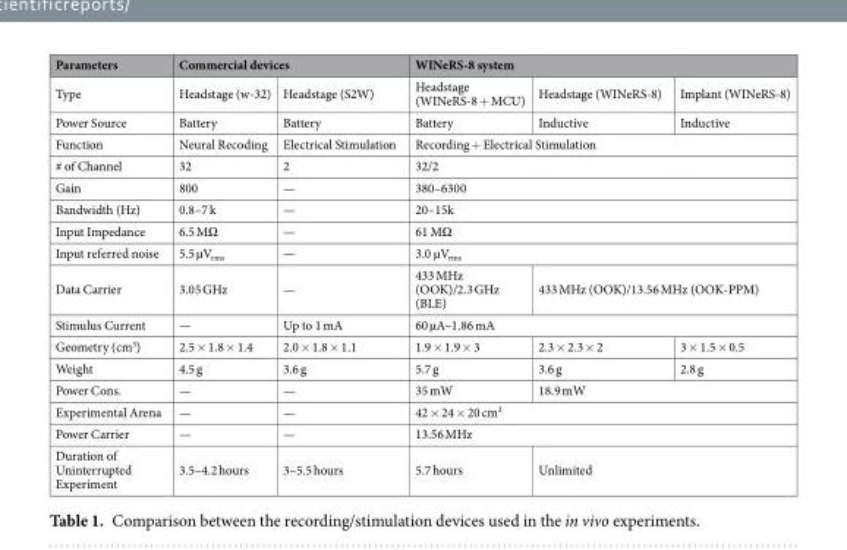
<table><thead><tr><td rowspan="2">Parameters Type</td><td colspan="2">Commercial devices</td><td colspan="3">WINeRS-8 system</td></tr><tr><td>Headstage (w-32)</td><td>Headstage (S2W)</td><td>Headstage (WINeRS-8 + MCU)</td><td>Headstage (WINeRS-8)</td><td>Implant (WINeRS-8)</td></tr></thead><tbody><tr><td>Power Source</td><td>Battery</td><td>Battery</td><td>Battery</td><td>Inductive</td><td>Inductive</td></tr><tr><td>Function</td><td>Neural Recoding</td><td>Electrical Stimulation</td><td colspan="3">Recording + Electrical Stimulation</td></tr><tr><td># of Channel</td><td>32</td><td>2</td><td colspan="3">32/2</td></tr><tr><td>Gain</td><td>800</td><td>—</td><td colspan="3">380–6300</td></tr><tr><td>Bandwidth (Hz)</td><td>0.8–7 k</td><td>—</td><td colspan="3">20–15k</td></tr><tr><td>Input Impedance</td><td>6.5 MΩ</td><td>—</td><td colspan="3">61 MΩ</td></tr><tr><td>Input referred noise</td><td>5.5 µV<sub>rms</sub></td><td>—</td><td colspan="3">3.0 µV<sub>rms</sub></td></tr><tr><td>Data Carrier</td><td>3.05 GHz</td><td>—</td><td>433 MHz (OOK)/2.3 GHz (BLE)</td><td colspan="2">433 MHz (OOK)/13.56 MHz (OOK-PPM)</td></tr><tr><td>Stimulus Current</td><td>—</td><td>Up to 1 mA</td><td colspan="3">60 µA–1.86 mA</td></tr><tr><td>Geometry (cm<sup>3</sup>)</td><td>2.5 × 1.8 × 1.4</td><td>2.0 × 1.8 × 1.1</td><td>1.9 × 1.9 × 3</td><td>2.3 × 2.3 × 2</td><td>3 × 1.5 × 0.5</td></tr><tr><td>Weight</td><td>4.5 g</td><td>3.6 g</td><td>5.7 g</td><td>3.6 g</td><td>2.8 g</td></tr><tr><td>Power Cons.</td><td>—</td><td>—</td><td>35 mW</td><td colspan="2">18.9 mW</td></tr><tr><td>Experimental Arena</td><td>—</td><td>—</td><td colspan="3">42 × 24 × 20 cm<sup>3</sup></td></tr><tr><td>Power Carrier</td><td>—</td><td>—</td><td colspan="3">13.56 MHz</td></tr><tr><td>Duration of Uninterrupted Experiment</td><td>3.5–4.2 hours</td><td>3–5.5 hours</td><td>5.7 hours</td><td colspan="2">Unlimited</td></tr></tbody></table>